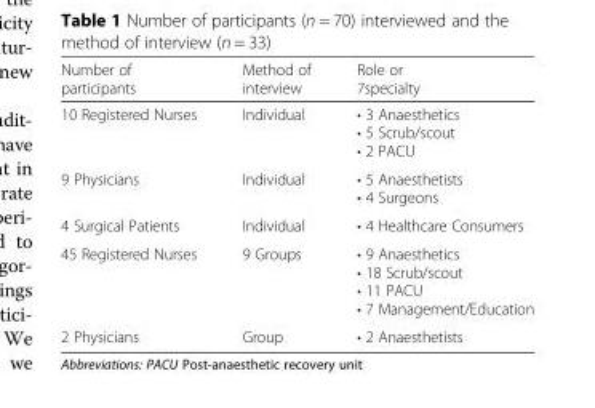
<table><thead><tr><td>Number of participants</td><td>Method of interview</td><td>Role or 7specialty</td></tr></thead><tbody><tr><td>10 Registered Nurses</td><td>Individual</td><td>• 3 Anaesthetics • 5 Scrub/scout • 2 PACU</td></tr><tr><td>9 Physicians</td><td>Individual</td><td>• 5 Anaesthetists • 4 Surgeons</td></tr><tr><td>4 Surgical Patients</td><td>Individual</td><td>• 4 Healthcare Consumers</td></tr><tr><td>45 Registered Nurses</td><td>9 Groups</td><td>• 9 Anaesthetics • 18 Scrub/scout • 11 PACU • 7 Management/Education</td></tr><tr><td>2 Physicians</td><td>Group</td><td>• 2 Anaesthetists</td></tr></tbody></table>